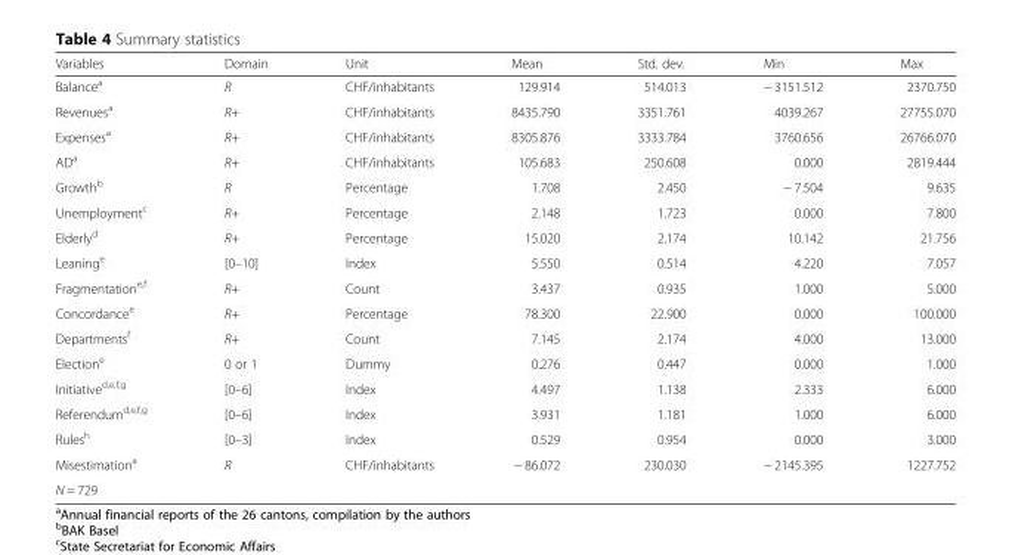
<table><thead><tr><td>Variables</td><td>Domain</td><td>Unit</td><td>Mean</td><td>Std. dev.</td><td>Min</td><td>Max</td></tr></thead><tbody><tr><td>Balance<sup>a</sup></td><td>R</td><td>CHF/inhabitants</td><td>129.914</td><td>514.013</td><td>− 3151.512</td><td>2370.750</td></tr><tr><td>Revenues<sup>a</sup></td><td>R+</td><td>CHF/inhabitants</td><td>8435.790</td><td>3351.761</td><td>4039.267</td><td>27755.070</td></tr><tr><td>Expenses<sup>a</sup></td><td>R+</td><td>CHF/inhabitants</td><td>8305.876</td><td>3333.784</td><td>3760.656</td><td>26766.070</td></tr><tr><td>AD<sup>a</sup></td><td>R+</td><td>CHF/inhabitants</td><td>105.683</td><td>250.608</td><td>0.000</td><td>2819.444</td></tr><tr><td>Growth<sup>b</sup></td><td>R</td><td>Percentage</td><td>1.708</td><td>2.450</td><td>− 7.504</td><td>9.635</td></tr><tr><td>Unemployment<sup>c</sup></td><td>R+</td><td>Percentage</td><td>2.148</td><td>1.723</td><td>0.000</td><td>7.800</td></tr><tr><td>Elderly<sup>d</sup></td><td>R+</td><td>Percentage</td><td>15.020</td><td>2.174</td><td>10.142</td><td>21.756</td></tr><tr><td>Leaning<sup>e</sup></td><td>[0–10]</td><td>Index</td><td>5.550</td><td>0.514</td><td>4.220</td><td>7.057</td></tr><tr><td>Fragmentation<sup>e,f</sup></td><td>R+</td><td>Count</td><td>3.437</td><td>0.935</td><td>1.000</td><td>5.000</td></tr><tr><td>Concordance<sup>e</sup></td><td>R+</td><td>Percentage</td><td>78.300</td><td>22.900</td><td>0.000</td><td>100.000</td></tr><tr><td>Departments<sup>f</sup></td><td>R+</td><td>Count</td><td>7.145</td><td>2.174</td><td>4.000</td><td>13.000</td></tr><tr><td>Election<sup>e</sup></td><td>0 or 1</td><td>Dummy</td><td>0.276</td><td>0.447</td><td>0.000</td><td>1.000</td></tr><tr><td>Initiative<sup>d,e,f,g</sup></td><td>[0–6]</td><td>Index</td><td>4.497</td><td>1.138</td><td>2.333</td><td>6.000</td></tr><tr><td>Referendum<sup>d,e,f,g</sup></td><td>[0–6]</td><td>Index</td><td>3.931</td><td>1.181</td><td>1.000</td><td>6.000</td></tr><tr><td>Rules<sup>h</sup></td><td>[0–3]</td><td>Index</td><td>0.529</td><td>0.954</td><td>0.000</td><td>3.000</td></tr><tr><td>Misestimation<sup>a</sup></td><td>R</td><td>CHF/inhabitants</td><td>− 86.072</td><td>230.030</td><td>− 2145.395</td><td>1227.752</td></tr><tr><td>N = 729</td><td></td><td></td><td></td><td></td><td></td><td></td></tr></tbody></table>